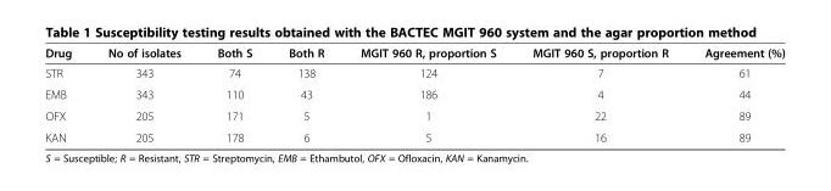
<table><thead><tr><td>Drug</td><td>No of isolates</td><td>Both S</td><td>Both R</td><td>MGIT 960 R, proportion S</td><td>MGIT 960 S, proportion R</td><td>Agreement (%)</td></tr></thead><tbody><tr><td>STR</td><td>343</td><td>74</td><td>138</td><td>124</td><td>7</td><td>61</td></tr><tr><td>EMB</td><td>343</td><td>110</td><td>43</td><td>186</td><td>4</td><td>44</td></tr><tr><td>OFX</td><td>205</td><td>171</td><td>5</td><td>1</td><td>22</td><td>89</td></tr><tr><td>KAN</td><td>205</td><td>178</td><td>6</td><td>5</td><td>16</td><td>89</td></tr></tbody></table>